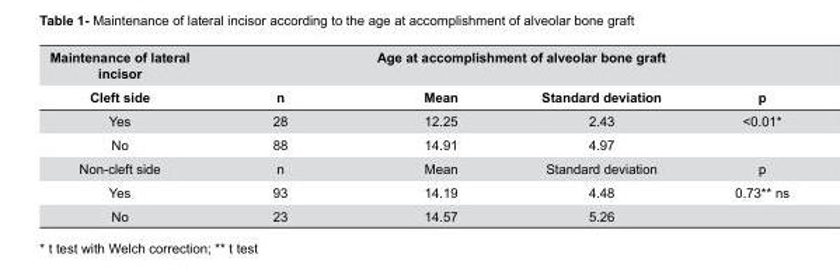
<table><thead><tr><td rowspan="2">Maintenance of lateral incisor Cleft side</td><td rowspan="2">n</td><td colspan="2">Age at accomplishment of alveolar bone graft</td><td rowspan="2">p</td></tr><tr><td>Mean</td><td>Standard deviation</td></tr></thead><tbody><tr><td>Yes</td><td>28</td><td>12.25</td><td>2.43</td><td>&lt;0.01*</td></tr><tr><td>No</td><td>88</td><td>14.91</td><td>4.97</td><td></td></tr><tr><td>Non-cleft side</td><td>n</td><td>Mean</td><td>Standard deviation</td><td>p</td></tr><tr><td>Yes</td><td>93</td><td>14.19</td><td>4.48</td><td>0.73** ns</td></tr><tr><td>No</td><td>23</td><td>14.57</td><td>5.26</td><td></td></tr></tbody></table>